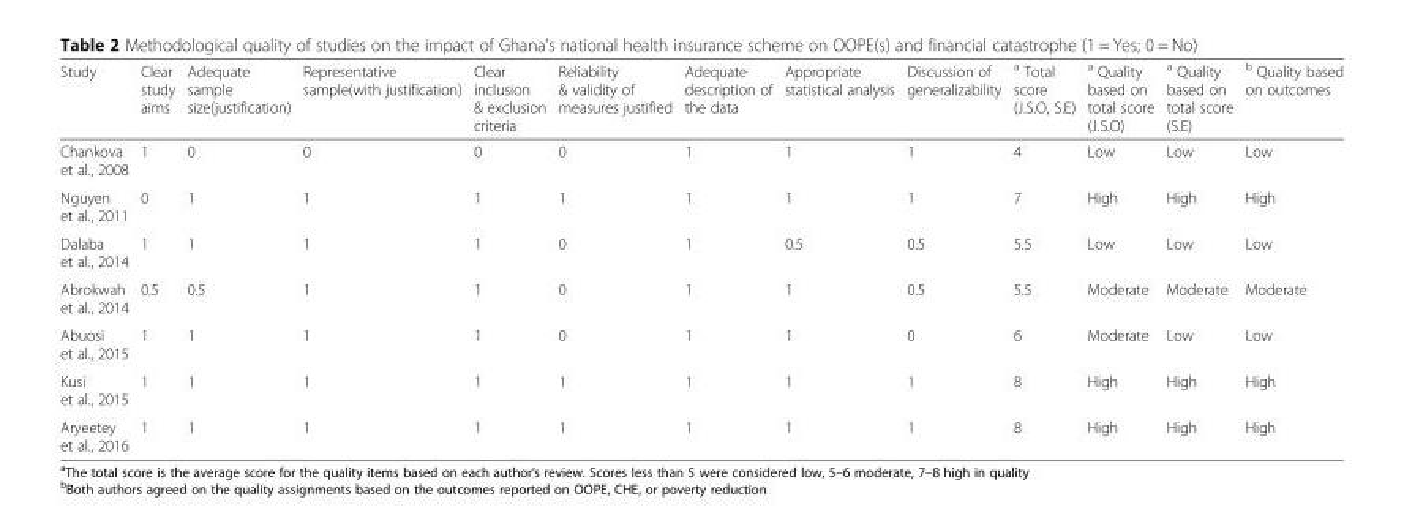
<table><thead><tr><td>Study</td><td>Clear study aims</td><td>Adequate sample size(justification)</td><td>Representative sample(with justification)</td><td>Clear inclusion &amp; exclusion criteria</td><td>Reliability &amp; validity of measures justified</td><td>Adequate description of the data</td><td>Appropriate statistical analysis</td><td>Discussion of generalizability</td><td><sup>a</sup> Total score (J.S.O, S.E)</td><td><sup>a</sup> Quality based on total score (J.S.O)</td><td><sup>a</sup> Quality based on total score (S.E)</td><td><sup>b</sup> Quality based on outcomes</td></tr></thead><tbody><tr><td>Chankova et al., 2008</td><td>1</td><td>0</td><td>0</td><td>0</td><td>0</td><td>1</td><td>1</td><td>1</td><td>4</td><td>Low</td><td>Low</td><td>Low</td></tr><tr><td>Nguyen et al., 2011</td><td>0</td><td>1</td><td>1</td><td>1</td><td>1</td><td>1</td><td>1</td><td>1</td><td>7</td><td>High</td><td>High</td><td>High</td></tr><tr><td>Dalaba et al., 2014</td><td>1</td><td>1</td><td>1</td><td>1</td><td>0</td><td>1</td><td>0.5</td><td>0.5</td><td>5.5</td><td>Low</td><td>Low</td><td>Low</td></tr><tr><td>Abrokwah et al., 2014</td><td>0.5</td><td>0.5</td><td>1</td><td>1</td><td>0</td><td>1</td><td>1</td><td>0.5</td><td>5.5</td><td>Moderate</td><td>Moderate</td><td>Moderate</td></tr><tr><td>Abuosi et al., 2015</td><td>1</td><td>1</td><td>1</td><td>1</td><td>0</td><td>1</td><td>1</td><td>0</td><td>6</td><td>Moderate</td><td>Low</td><td>Low</td></tr><tr><td>Kusi et al., 2015</td><td>1</td><td>1</td><td>1</td><td>1</td><td>1</td><td>1</td><td>1</td><td>1</td><td>8</td><td>High</td><td>High</td><td>High</td></tr><tr><td>Aryeetey et al., 2016</td><td>1</td><td>1</td><td>1</td><td>1</td><td>1</td><td>1</td><td>1</td><td>1</td><td>8</td><td>High</td><td>High</td><td>High</td></tr></tbody></table>